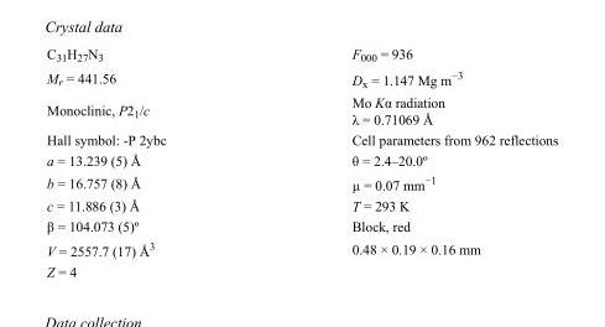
<table><tbody><tr><td>C<sub>31</sub>H<sub>27</sub>N<sub>3</sub></td><td>F000 = 936</td></tr><tr><td>M<sub>r</sub> = 441.56</td><td>D<sub>x</sub> = 1.147 Mg m<sup>−3</sup></td></tr><tr><td>Monoclinic, P2<sub>1</sub>/c</td><td>Mo Kα radiation λ = 0.71069 Å</td></tr><tr><td>Hall symbol: -P 2ybc</td><td>Cell parameters from 962 reflections</td></tr><tr><td>a = 13.239 (5) Å</td><td>θ = 2.4–20.0º</td></tr><tr><td>b = 16.757 (8) Å</td><td>µ = 0.07 mm<sup>−1</sup></td></tr><tr><td>c = 11.886 (3) Å</td><td>T = 293 K</td></tr><tr><td>β = 104.073 (5)º</td><td>Block, red</td></tr><tr><td>V = 2557.7 (17) Å<sup>3</sup></td><td>0.48 × 0.19 × 0.16 mm</td></tr><tr><td>Z = 4</td><td></td></tr></tbody></table>